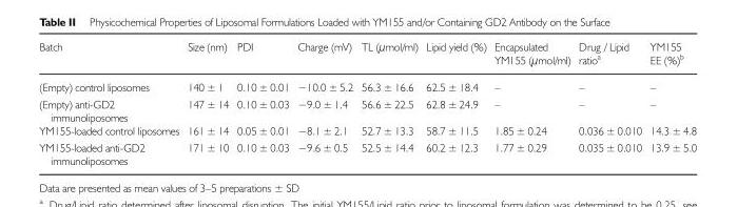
<table><thead><tr><td>Batch</td><td>Size (nm)</td><td>PDI</td><td>Charge (mV)</td><td>TL (μmol/ml)</td><td>Lipid yield (%)</td><td>Encapsulated YM155 (μmol/ml)</td><td>Drug / Lipid ratio<sup>a</sup></td><td>YM155 EE (%)<sup>b</sup></td></tr></thead><tbody><tr><td>(Empty) control liposomes</td><td>140 ± 1</td><td>0.10 ± 0.01</td><td>−10.0 ± 5.2</td><td>56.3 ± 16.6</td><td>62.5 ± 18.4</td><td>–</td><td>–</td><td>–</td></tr><tr><td>(Empty) anti-GD2 immunoliposomes</td><td>147 ± 14</td><td>0.10 ± 0.03</td><td>−9.0 ± 1.4</td><td>56.6 ± 22.5</td><td>62.8 ± 24.9</td><td>–</td><td>–</td><td>–</td></tr><tr><td>YM155-loaded control liposomes</td><td>161 ± 14</td><td>0.05 ± 0.01</td><td>−8.1 ± 2.1</td><td>52.7 ± 13.3</td><td>58.7 ± 11.5</td><td>1.85 ± 0.24</td><td>0.036 ± 0.010</td><td>14.3 ± 4.8</td></tr><tr><td>YM155-loaded anti-GD2 immunoliposomes</td><td>171 ± 10</td><td>0.10 ± 0.03</td><td>−9.6 ± 0.5</td><td>52.5 ± 14.4</td><td>60.2 ± 12.3</td><td>1.77 ± 0.29</td><td>0.035 ± 0.010</td><td>13.9 ± 5.0</td></tr></tbody></table>